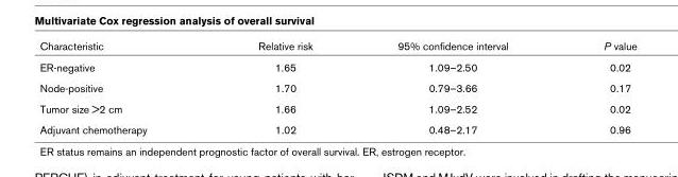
<table><thead><tr><td>Characteristic</td><td>Relative risk</td><td>95% confidence interval</td><td>P value</td></tr></thead><tbody><tr><td>ER-negative</td><td>1.65</td><td>1.09–2.50</td><td>0.02</td></tr><tr><td>Node-positive</td><td>1.70</td><td>0.79–3.66</td><td>0.17</td></tr><tr><td>Tumor size &gt;2 cm</td><td>1.66</td><td>1.09–2.52</td><td>0.02</td></tr><tr><td>Adjuvant chemotherapy</td><td>1.02</td><td>0.48–2.17</td><td>0.96</td></tr></tbody></table>